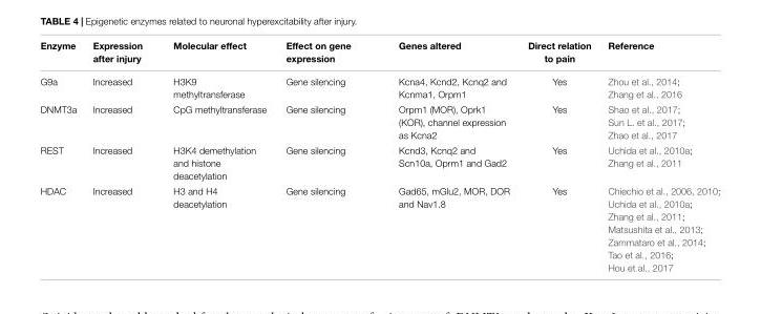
<table><thead><tr><td>Enzyme</td><td>Expression after injury</td><td>Molecular effect</td><td>Effect on gene expression</td><td>Genes altered</td><td>Direct relation to pain</td><td>Reference</td></tr></thead><tbody><tr><td>G9a</td><td>Increased</td><td>H3K9 methyltransferase</td><td>Gene silencing</td><td>Kcna4, Kcnd2, Kcnq2 and Kcnma1, Orpm1</td><td>Yes</td><td>Zhou et al., 2014; Zhang et al., 2016</td></tr><tr><td>DNMT3a</td><td>Increased</td><td>CpG methyltransferase</td><td>Gene silencing</td><td>Orpm1 (MOR), Oprk1 (KOR), channel expression as Kcna2</td><td>Yes</td><td>Shao et al., 2017; Sun L. et al., 2017; Zhao et al., 2017</td></tr><tr><td>REST</td><td>Increased</td><td>H3K4 demethylation and histone deacetylation</td><td>Gene silencing</td><td>Kcnd3, Kcnq2 and Scn10a, Oprm1 and Gad2</td><td>Yes</td><td>Uchida et al., 2010a; Zhang et al., 2011</td></tr><tr><td>HDAC</td><td>Increased</td><td>H3 and H4 deacetylation</td><td>Gene silencing</td><td>Gad65, mGlu2, MOR, DOR and Nav1.8</td><td>Yes</td><td>Chiechio et al., 2006, 2010; Uchida et al., 2010a; Zhang et al., 2011; Matsushita et al., 2013; Zammataro et al., 2014; Tao et al., 2016; Hou et al., 2017</td></tr></tbody></table>